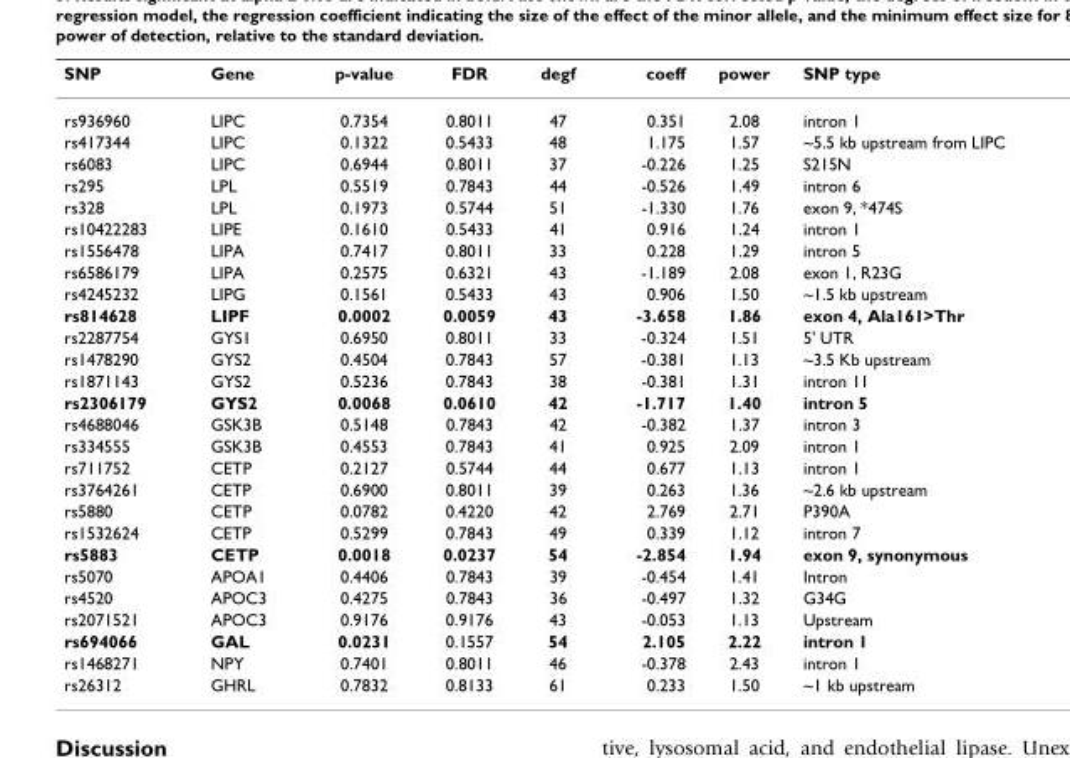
<table><thead><tr><td>SNP</td><td>Gene</td><td>p-value</td><td>FDR</td><td>degf</td><td>coeff</td><td>power</td><td>SNP type</td></tr></thead><tbody><tr><td>rs936960</td><td>LIPC</td><td>0.7354</td><td>0.8011</td><td>47</td><td>0.351</td><td>2.08</td><td>intron 1</td></tr><tr><td>rs417344</td><td>LIPC</td><td>0.1322</td><td>0.5433</td><td>48</td><td>1.175</td><td>1.57</td><td>~5.5 kb upstream from LIPC</td></tr><tr><td>rs6083</td><td>LIPC</td><td>0.6944</td><td>0.8011</td><td>37</td><td>-0.226</td><td>1.25</td><td>S215N</td></tr><tr><td>rs295</td><td>LPL</td><td>0.5519</td><td>0.7843</td><td>44</td><td>-0.526</td><td>1.49</td><td>intron 6</td></tr><tr><td>rs328</td><td>LPL</td><td>0.1973</td><td>0.5744</td><td>51</td><td>-1.330</td><td>1.76</td><td>exon 9, *474S</td></tr><tr><td>rs10422283</td><td>LIPE</td><td>0.1610</td><td>0.5433</td><td>41</td><td>0.916</td><td>1.24</td><td>intron 1</td></tr><tr><td>rs1556478</td><td>LIPA</td><td>0.7417</td><td>0.8011</td><td>33</td><td>0.228</td><td>1.29</td><td>intron 5</td></tr><tr><td>rs6586179</td><td>LIPA</td><td>0.2575</td><td>0.6321</td><td>43</td><td>-1.189</td><td>2.08</td><td>exon 1, R23G</td></tr><tr><td>rs4245232</td><td>LIPG</td><td>0.1561</td><td>0.5433</td><td>43</td><td>0.906</td><td>1.50</td><td>~1.5 kb upstream</td></tr><tr><td>rs814628</td><td>LIPF</td><td>0.0002</td><td>0.0059</td><td>43</td><td>-3.658</td><td>1.86</td><td>exon 4, Ala161&gt;Thr</td></tr><tr><td>rs2287754</td><td>GYS1</td><td>0.6950</td><td>0.8011</td><td>33</td><td>-0.324</td><td>1.51</td><td>5&#x27; UTR</td></tr><tr><td>rs1478290</td><td>GYS2</td><td>0.4504</td><td>0.7843</td><td>57</td><td>-0.381</td><td>1.13</td><td>~3.5 Kb upstream</td></tr><tr><td>rs1871143</td><td>GYS2</td><td>0.5236</td><td>0.7843</td><td>38</td><td>-0.381</td><td>1.31</td><td>intron 11</td></tr><tr><td>rs2306179</td><td>GYS2</td><td>0.0068</td><td>0.0610</td><td>42</td><td>-1.717</td><td>1.40</td><td>intron 5</td></tr><tr><td>rs4688046</td><td>GSK3B</td><td>0.5148</td><td>0.7843</td><td>42</td><td>-0.382</td><td>1.37</td><td>intron 3</td></tr><tr><td>rs334555</td><td>GSK3B</td><td>0.4553</td><td>0.7843</td><td>41</td><td>0.925</td><td>2.09</td><td>intron 1</td></tr><tr><td>rs711752</td><td>CETP</td><td>0.2127</td><td>0.5744</td><td>44</td><td>0.677</td><td>1.13</td><td>intron 1</td></tr><tr><td>rs3764261</td><td>CETP</td><td>0.6900</td><td>0.8011</td><td>39</td><td>0.263</td><td>1.36</td><td>~2.6 kb upstream</td></tr><tr><td>rs5880</td><td>CETP</td><td>0.0782</td><td>0.4220</td><td>42</td><td>2.769</td><td>2.71</td><td>P390A</td></tr><tr><td>rs1532624</td><td>CETP</td><td>0.5299</td><td>0.7843</td><td>49</td><td>0.339</td><td>1.12</td><td>intron 7</td></tr><tr><td>rs5883</td><td>CETP</td><td>0.0018</td><td>0.0237</td><td>54</td><td>-2.854</td><td>1.94</td><td>exon 9, synonymous</td></tr><tr><td>rs5070</td><td>APOA1</td><td>0.4406</td><td>0.7843</td><td>39</td><td>-0.454</td><td>1.41</td><td>Intron</td></tr><tr><td>rs4520</td><td>APOC3</td><td>0.4275</td><td>0.7843</td><td>36</td><td>-0.497</td><td>1.32</td><td>G34G</td></tr><tr><td>rs2071521</td><td>APOC3</td><td>0.9176</td><td>0.9176</td><td>43</td><td>-0.053</td><td>1.13</td><td>Upstream</td></tr><tr><td>rs694066</td><td>GAL</td><td>0.0231</td><td>0.1557</td><td>54</td><td>2.105</td><td>2.22</td><td>intron 1</td></tr><tr><td>rs1468271</td><td>NPY</td><td>0.7401</td><td>0.8011</td><td>46</td><td>-0.378</td><td>2.43</td><td>intron 1</td></tr><tr><td>rs26312</td><td>GHRL</td><td>0.7832</td><td>0.8133</td><td>61</td><td>0.233</td><td>1.50</td><td>~1 kb upstream</td></tr></tbody></table>